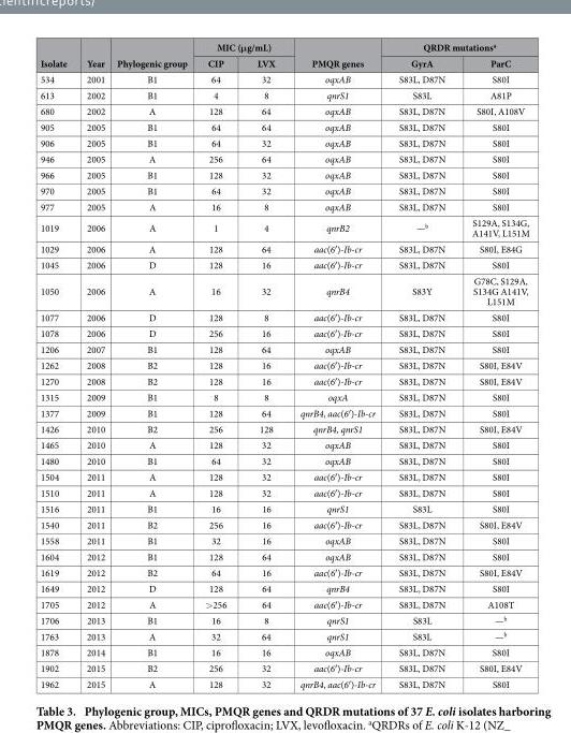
<table><thead><tr><td rowspan="2">Isolate</td><td rowspan="2">Year</td><td rowspan="2">Phylogenic group</td><td colspan="2">MIC (μg/mL)</td><td rowspan="2">PMQR genes</td><td colspan="2">QRDR mutations<sup>a</sup></td></tr><tr><td>CIP</td><td>LVX</td><td>GyrA</td><td>ParC</td></tr></thead><tbody><tr><td>534</td><td>2001</td><td>B1</td><td>64</td><td>32</td><td>oqxAB</td><td>S83L, D87N</td><td>S80I</td></tr><tr><td>613</td><td>2002</td><td>B1</td><td>4</td><td>8</td><td>qnrS1</td><td>S83L</td><td>A81P</td></tr><tr><td>680</td><td>2002</td><td>A</td><td>128</td><td>64</td><td>oqxAB</td><td>S83L, D87N</td><td>S80I, A108V</td></tr><tr><td>905</td><td>2005</td><td>B1</td><td>64</td><td>64</td><td>oqxAB</td><td>S83L, D87N</td><td>S80I</td></tr><tr><td>906</td><td>2005</td><td>B1</td><td>64</td><td>32</td><td>oqxAB</td><td>S83L, D87N</td><td>S80I</td></tr><tr><td>946</td><td>2005</td><td>A</td><td>256</td><td>64</td><td>oqxAB</td><td>S83L, D87N</td><td>S80I</td></tr><tr><td>966</td><td>2005</td><td>B1</td><td>128</td><td>32</td><td>oqxAB</td><td>S83L, D87N</td><td>S80I</td></tr><tr><td>970</td><td>2005</td><td>B1</td><td>64</td><td>32</td><td>oqxAB</td><td>S83L, D87N</td><td>S80I</td></tr><tr><td>977</td><td>2005</td><td>A</td><td>16</td><td>8</td><td>oqxAB</td><td>S83L, D87N</td><td>S80I</td></tr><tr><td>1019</td><td>2006</td><td>A</td><td>1</td><td>4</td><td>qnrB2</td><td>—b</td><td>S129A, S134G, A141V, L151M</td></tr><tr><td>1029</td><td>2006</td><td>A</td><td>128</td><td>64</td><td>aac(6′ )-Ib-cr</td><td>S83L, D87N</td><td>S80I, E84G</td></tr><tr><td>1045</td><td>2006</td><td>D</td><td>128</td><td>16</td><td>aac(6′ )-Ib-cr</td><td>S83L, D87N</td><td>S80I</td></tr><tr><td>1050</td><td>2006</td><td>A</td><td>16</td><td>32</td><td>qnrB4</td><td>S83Y</td><td>G78C, S129A, S134G A141V, L151M</td></tr><tr><td>1077</td><td>2006</td><td>D</td><td>128</td><td>8</td><td>aac(6′ )-Ib-cr</td><td>S83L, D87N</td><td>S80I</td></tr><tr><td>1078</td><td>2006</td><td>D</td><td>256</td><td>16</td><td>aac(6′ )-Ib-cr</td><td>S83L, D87N</td><td>S80I</td></tr><tr><td>1206</td><td>2007</td><td>B1</td><td>128</td><td>64</td><td>oqxAB</td><td>S83L, D87N</td><td>S80I</td></tr><tr><td>1262</td><td>2008</td><td>B2</td><td>128</td><td>16</td><td>aac(6′ )-Ib-cr</td><td>S83L, D87N</td><td>S80I, E84V</td></tr><tr><td>1270</td><td>2008</td><td>B2</td><td>128</td><td>16</td><td>aac(6′ )-Ib-cr</td><td>S83L, D87N</td><td>S80I, E84V</td></tr><tr><td>1315</td><td>2009</td><td>B1</td><td>8</td><td>8</td><td>oqxA</td><td>S83L, D87N</td><td>S80I</td></tr><tr><td>1377</td><td>2009</td><td>B1</td><td>128</td><td>64</td><td>qnrB4, aac(6′ )-Ib-cr</td><td>S83L, D87N</td><td>S80I</td></tr><tr><td>1426</td><td>2010</td><td>B2</td><td>256</td><td>128</td><td>qnrB4, qnrS1</td><td>S83L, D87N</td><td>S80I, E84V</td></tr><tr><td>1465</td><td>2010</td><td>A</td><td>128</td><td>32</td><td>oqxAB</td><td>S83L, D87N</td><td>S80I</td></tr><tr><td>1480</td><td>2010</td><td>B1</td><td>64</td><td>32</td><td>oqxAB</td><td>S83L, D87N</td><td>S80I</td></tr><tr><td>1504</td><td>2011</td><td>A</td><td>128</td><td>32</td><td>aac(6′ )-Ib-cr</td><td>S83L, D87N</td><td>S80I</td></tr><tr><td>1510</td><td>2011</td><td>A</td><td>128</td><td>32</td><td>aac(6′ )-Ib-cr</td><td>S83L, D87N</td><td>S80I</td></tr><tr><td>1516</td><td>2011</td><td>B1</td><td>16</td><td>16</td><td>qnrS1</td><td>S83L</td><td>S80I</td></tr><tr><td>1540</td><td>2011</td><td>B2</td><td>256</td><td>16</td><td>aac(6′ )-Ib-cr</td><td>S83L, D87N</td><td>S80I, E84V</td></tr><tr><td>1558</td><td>2011</td><td>B1</td><td>32</td><td>16</td><td>oqxAB</td><td>S83L, D87N</td><td>S80I</td></tr><tr><td>1604</td><td>2012</td><td>B1</td><td>128</td><td>64</td><td>oqxAB</td><td>S83L, D87N</td><td>S80I</td></tr><tr><td>1619</td><td>2012</td><td>B2</td><td>64</td><td>16</td><td>aac(6′ )-Ib-cr</td><td>S83L, D87N</td><td>S80I, E84V</td></tr><tr><td>1649</td><td>2012</td><td>D</td><td>128</td><td>64</td><td>qnrB4</td><td>S83L, D87N</td><td>S80I</td></tr><tr><td>1705</td><td>2012</td><td>A</td><td>&gt; 256</td><td>64</td><td>aac(6′ )-Ib-cr</td><td>S83L, D87N</td><td>A108T</td></tr><tr><td>1706</td><td>2013</td><td>B1</td><td>16</td><td>8</td><td>qnrS1</td><td>S83L</td><td>—b</td></tr><tr><td>1763</td><td>2013</td><td>A</td><td>32</td><td>64</td><td>qnrS1</td><td>S83L</td><td>—b</td></tr><tr><td>1878</td><td>2014</td><td>B1</td><td>16</td><td>16</td><td>oqxAB</td><td>S83L, D87N</td><td>S80I</td></tr><tr><td>1902</td><td>2015</td><td>B2</td><td>256</td><td>32</td><td>aac(6′ )-Ib-cr</td><td>S83L, D87N</td><td>S80I, E84V</td></tr><tr><td>1962</td><td>2015</td><td>A</td><td>128</td><td>32</td><td>qnrB4, aac(6′ )-Ib-cr</td><td>S83L, D87N</td><td>S80I</td></tr></tbody></table>